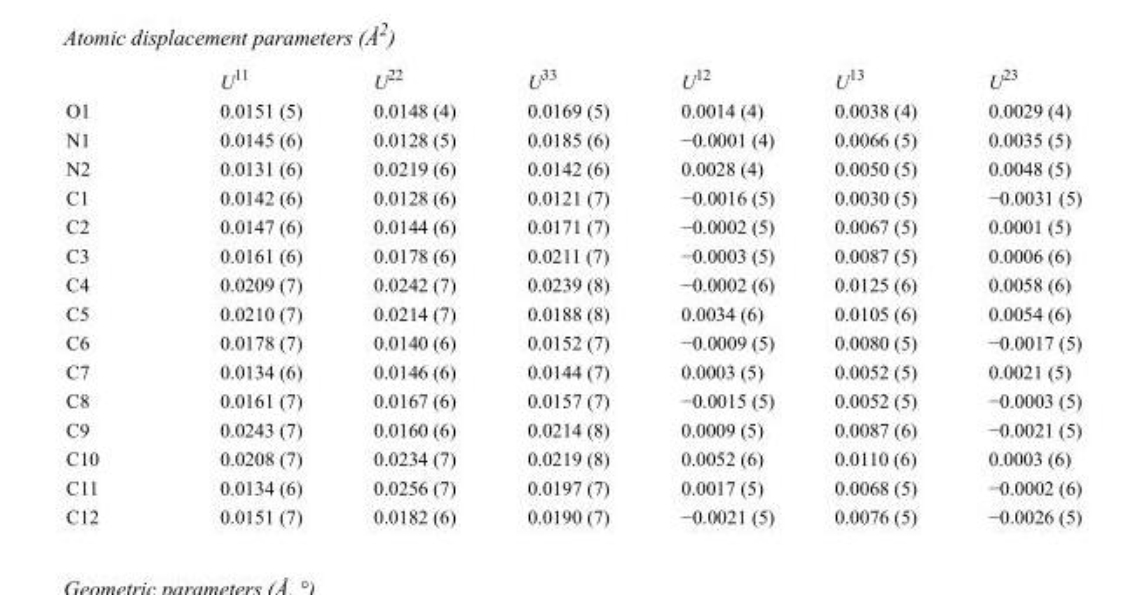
<table><thead><tr><td></td><td>U<sup>11</sup></td><td>U<sup>22</sup></td><td>U<sup>33</sup></td><td>U<sup>12</sup></td><td>U<sup>13</sup></td><td>U<sup>23</sup></td></tr></thead><tbody><tr><td>O1</td><td>0.0151 (5)</td><td>0.0148 (4)</td><td>0.0169 (5)</td><td>0.0014 (4)</td><td>0.0038 (4)</td><td>0.0029 (4)</td></tr><tr><td>N1</td><td>0.0145 (6)</td><td>0.0128 (5)</td><td>0.0185 (6)</td><td>−0.0001 (4)</td><td>0.0066 (5)</td><td>0.0035 (5)</td></tr><tr><td>N2</td><td>0.0131 (6)</td><td>0.0219 (6)</td><td>0.0142 (6)</td><td>0.0028 (4)</td><td>0.0050 (5)</td><td>0.0048 (5)</td></tr><tr><td>C1</td><td>0.0142 (6)</td><td>0.0128 (6)</td><td>0.0121 (7)</td><td>−0.0016 (5)</td><td>0.0030 (5)</td><td>−0.0031 (5)</td></tr><tr><td>C2</td><td>0.0147 (6)</td><td>0.0144 (6)</td><td>0.0171 (7)</td><td>−0.0002 (5)</td><td>0.0067 (5)</td><td>0.0001 (5)</td></tr><tr><td>C3</td><td>0.0161 (6)</td><td>0.0178 (6)</td><td>0.0211 (7)</td><td>−0.0003 (5)</td><td>0.0087 (5)</td><td>0.0006 (6)</td></tr><tr><td>C4</td><td>0.0209 (7)</td><td>0.0242 (7)</td><td>0.0239 (8)</td><td>−0.0002 (6)</td><td>0.0125 (6)</td><td>0.0058 (6)</td></tr><tr><td>C5</td><td>0.0210 (7)</td><td>0.0214 (7)</td><td>0.0188 (8)</td><td>0.0034 (6)</td><td>0.0105 (6)</td><td>0.0054 (6)</td></tr><tr><td>C6</td><td>0.0178 (7)</td><td>0.0140 (6)</td><td>0.0152 (7)</td><td>−0.0009 (5)</td><td>0.0080 (5)</td><td>−0.0017 (5)</td></tr><tr><td>C7</td><td>0.0134 (6)</td><td>0.0146 (6)</td><td>0.0144 (7)</td><td>0.0003 (5)</td><td>0.0052 (5)</td><td>0.0021 (5)</td></tr><tr><td>C8</td><td>0.0161 (7)</td><td>0.0167 (6)</td><td>0.0157 (7)</td><td>−0.0015 (5)</td><td>0.0052 (5)</td><td>−0.0003 (5)</td></tr><tr><td>C9</td><td>0.0243 (7)</td><td>0.0160 (6)</td><td>0.0214 (8)</td><td>0.0009 (5)</td><td>0.0087 (6)</td><td>−0.0021 (5)</td></tr><tr><td>C10</td><td>0.0208 (7)</td><td>0.0234 (7)</td><td>0.0219 (8)</td><td>0.0052 (6)</td><td>0.0110 (6)</td><td>0.0003 (6)</td></tr><tr><td>C11</td><td>0.0134 (6)</td><td>0.0256 (7)</td><td>0.0197 (7)</td><td>0.0017 (5)</td><td>0.0068 (5)</td><td>−0.0002 (6)</td></tr><tr><td>C12</td><td>0.0151 (7)</td><td>0.0182 (6)</td><td>0.0190 (7)</td><td>−0.0021 (5)</td><td>0.0076 (5)</td><td>−0.0026 (5)</td></tr></tbody></table>